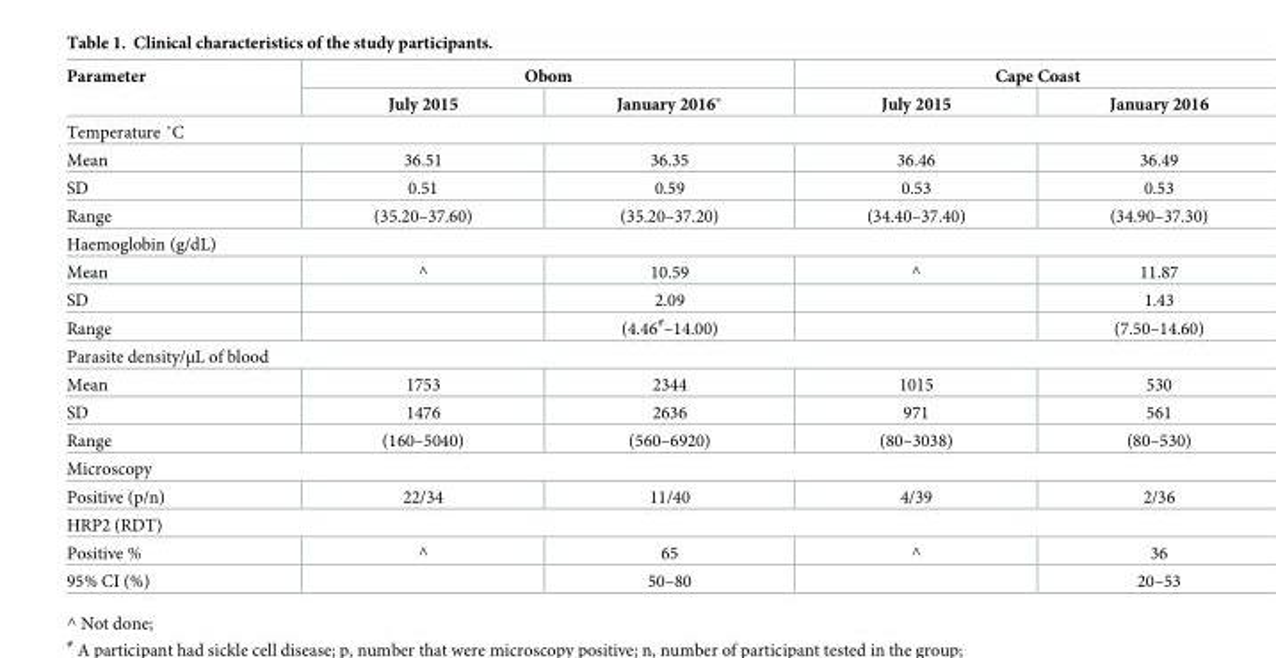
<table><thead><tr><td rowspan="2">Parameter</td><td colspan="2">Obom</td><td colspan="2">Cape Coast</td></tr><tr><td>July 2015</td><td>January 2016*</td><td>July 2015</td><td>January 2016</td></tr></thead><tbody><tr><td colspan="5">Temperature ˚C</td></tr><tr><td>Mean</td><td>36.51</td><td>36.35</td><td>36.46</td><td>36.49</td></tr><tr><td>SD</td><td>0.51</td><td>0.59</td><td>0.53</td><td>0.53</td></tr><tr><td>Range</td><td>(35.20–37.60)</td><td>(35.20–37.20)</td><td>(34.40–37.40)</td><td>(34.90–37.30)</td></tr><tr><td colspan="5">Haemoglobin (g/dL)</td></tr><tr><td>Mean</td><td>^</td><td>10.59</td><td>^</td><td>11.87</td></tr><tr><td>SD</td><td></td><td>2.09</td><td></td><td>1.43</td></tr><tr><td>Range</td><td></td><td>(4.46<sup>#</sup>–14.00)</td><td></td><td>(7.50–14.60)</td></tr><tr><td colspan="5">Parasite density/μL of blood</td></tr><tr><td>Mean</td><td>1753</td><td>2344</td><td>1015</td><td>530</td></tr><tr><td>SD</td><td>1476</td><td>2636</td><td>971</td><td>561</td></tr><tr><td>Range</td><td>(160–5040)</td><td>(560–6920)</td><td>(80–3038)</td><td>(80–530)</td></tr><tr><td colspan="5">Microscopy</td></tr><tr><td>Positive (p/n)</td><td>22/34</td><td>11/40</td><td>4/39</td><td>2/36</td></tr><tr><td colspan="5">HRP2 (RDT)</td></tr><tr><td>Positive %</td><td>^</td><td>65</td><td>^</td><td>36</td></tr><tr><td>95% CI (%)</td><td></td><td>50–80</td><td></td><td>20–53</td></tr></tbody></table>